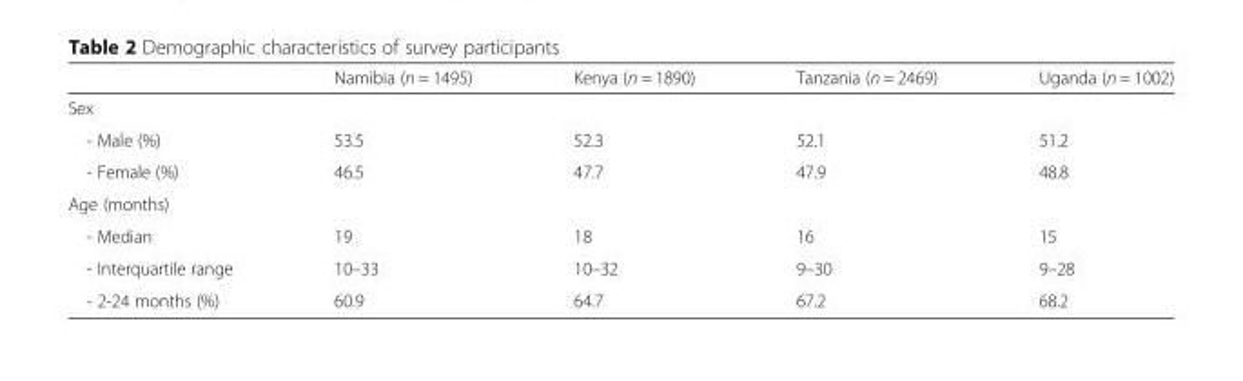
<table><thead><tr><td></td><td>Namibia (n = 1495)</td><td>Kenya (n = 1890)</td><td>Tanzania (n = 2469)</td><td>Uganda (n = 1002)</td></tr></thead><tbody><tr><td colspan="5">Sex</td></tr><tr><td>- Male (%)</td><td>53.5</td><td>52.3</td><td>52.1</td><td>51.2</td></tr><tr><td>- Female (%)</td><td>46.5</td><td>47.7</td><td>47.9</td><td>48.8</td></tr><tr><td colspan="5">Age (months)</td></tr><tr><td>- Median</td><td>19</td><td>18</td><td>16</td><td>15</td></tr><tr><td>- Interquartile range</td><td>10–33</td><td>10–32</td><td>9–30</td><td>9–28</td></tr><tr><td>- 2-24 months (%)</td><td>60.9</td><td>64.7</td><td>67.2</td><td>68.2</td></tr></tbody></table>